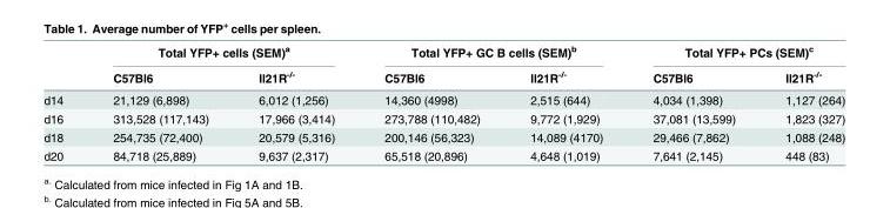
<table><thead><tr><td rowspan="2"></td><td colspan="2">Total YFP+ cells (SEM)<sup>a</sup></td><td colspan="2">Total YFP+ GC B cells (SEM)<sup>b</sup></td><td colspan="2">Total YFP+ PCs (SEM)<sup>c</sup></td></tr><tr><td>C57Bl6</td><td>Il21R<sup>-/-</sup></td><td>C57Bl6</td><td>Il21R<sup>-/-</sup></td><td>C57Bl6</td><td>Il21R<sup>-/-</sup></td></tr></thead><tbody><tr><td>d14</td><td>21,129 (6,898)</td><td>6,012 (1,256)</td><td>14,360 (4998)</td><td>2,515 (644)</td><td>4,034 (1,398)</td><td>1,127 (264)</td></tr><tr><td>d16</td><td>313,528 (117,143)</td><td>17,966 (3,414)</td><td>273,788 (110,482)</td><td>9,772 (1,929)</td><td>37,081 (13,599)</td><td>1,823 (327)</td></tr><tr><td>d18</td><td>254,735 (72,400)</td><td>20,579 (5,316)</td><td>200,146 (56,323)</td><td>14,089 (4170)</td><td>29,466 (7,862)</td><td>1,088 (248)</td></tr><tr><td>d20</td><td>84,718 (25,889)</td><td>9,637 (2,317)</td><td>65,518 (20,896)</td><td>4,648 (1,019)</td><td>7,641 (2,145)</td><td>448 (83)</td></tr></tbody></table>